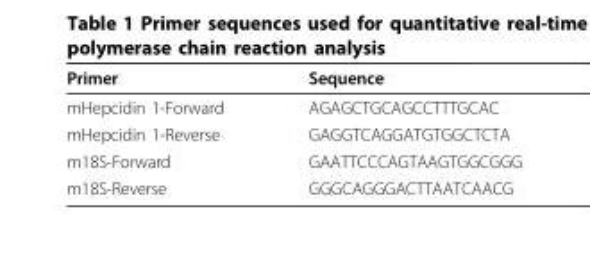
<table><thead><tr><td>Primer</td><td>Sequence</td></tr></thead><tbody><tr><td>mHepcidin 1-Forward</td><td>AGAGCTGCAGCCTTTGCAC</td></tr><tr><td>mHepcidin 1-Reverse</td><td>GAGGTCAGGATGTGGCTCTA</td></tr><tr><td>m18S-Forward</td><td>GAATTCCCAGTAAGTGGCGGG</td></tr><tr><td>m18S-Reverse</td><td>GGGCAGGGACTTAATCAACG</td></tr></tbody></table>